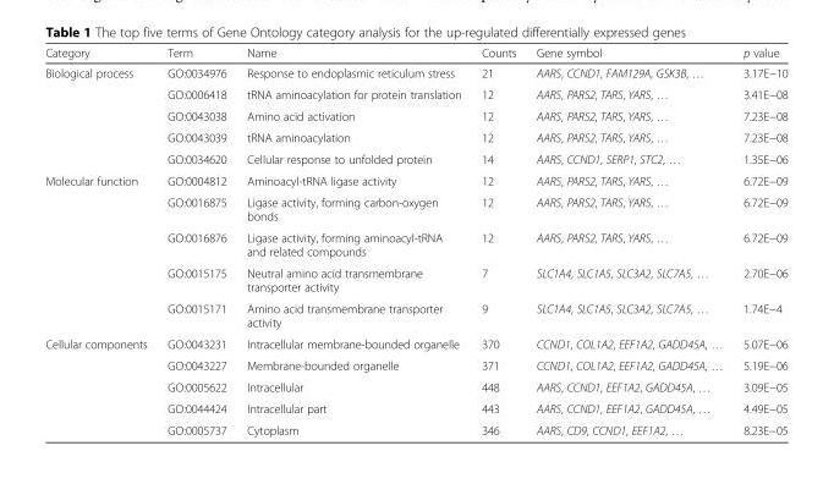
<table><thead><tr><td>Category</td><td>Term</td><td>Name</td><td>Counts</td><td>Gene symbol</td><td>p value</td></tr></thead><tbody><tr><td rowspan="5">Biological process</td><td>GO:0034976</td><td>Response to endoplasmic reticulum stress</td><td>21</td><td>AARS, CCND1, FAM129A, GSK3B, …</td><td>3.17E−10</td></tr><tr><td>GO:0006418</td><td>tRNA aminoacylation for protein translation</td><td>12</td><td>AARS, PARS2, TARS, YARS, …</td><td>3.41E−08</td></tr><tr><td>GO:0043038</td><td>Amino acid activation</td><td>12</td><td>AARS, PARS2, TARS, YARS, …</td><td>7.23E−08</td></tr><tr><td>GO:0043039</td><td>tRNA aminoacylation</td><td>12</td><td>AARS, PARS2, TARS, YARS, …</td><td>7.23E−08</td></tr><tr><td>GO:0034620</td><td>Cellular response to unfolded protein</td><td>14</td><td>AARS, CCND1, SERP1, STC2, …</td><td>1.35E−06</td></tr><tr><td rowspan="5">Molecular function</td><td>GO:0004812</td><td>Aminoacyl-tRNA ligase activity</td><td>12</td><td>AARS, PARS2, TARS, YARS, …</td><td>6.72E−09</td></tr><tr><td>GO:0016875</td><td>Ligase activity, forming carbon-oxygen bonds</td><td>12</td><td>AARS, PARS2, TARS, YARS, …</td><td>6.72E−09</td></tr><tr><td>GO:0016876</td><td>Ligase activity, forming aminoacyl-tRNA and related compounds</td><td>12</td><td>AARS, PARS2, TARS, YARS, …</td><td>6.72E−09</td></tr><tr><td>GO:0015175</td><td>Neutral amino acid transmembrane transporter activity</td><td>7</td><td>SLC1A4, SLC1A5, SLC3A2, SLC7A5, …</td><td>2.70E−06</td></tr><tr><td>GO:0015171</td><td>Amino acid transmembrane transporter activity</td><td>9</td><td>SLC1A4, SLC1A5, SLC3A2, SLC7A5, …</td><td>1.74E−4</td></tr><tr><td rowspan="5">Cellular components</td><td>GO:0043231</td><td>Intracellular membrane-bounded organelle</td><td>370</td><td>CCND1, COL1A2, EEF1A2, GADD45A, …</td><td>5.07E−06</td></tr><tr><td>GO:0043227</td><td>Membrane-bounded organelle</td><td>371</td><td>CCND1, COL1A2, EEF1A2, GADD45A, …</td><td>5.19E−06</td></tr><tr><td>GO:0005622</td><td>Intracellular</td><td>448</td><td>AARS, CCND1, EEF1A2, GADD45A, …</td><td>3.09E−05</td></tr><tr><td>GO:0044424</td><td>Intracellular part</td><td>443</td><td>AARS, CCND1, EEF1A2, GADD45A, …</td><td>4.49E−05</td></tr><tr><td>GO:0005737</td><td>Cytoplasm</td><td>346</td><td>AARS, CD9, CCND1, EEF1A2, …</td><td>8.23E−05</td></tr></tbody></table>